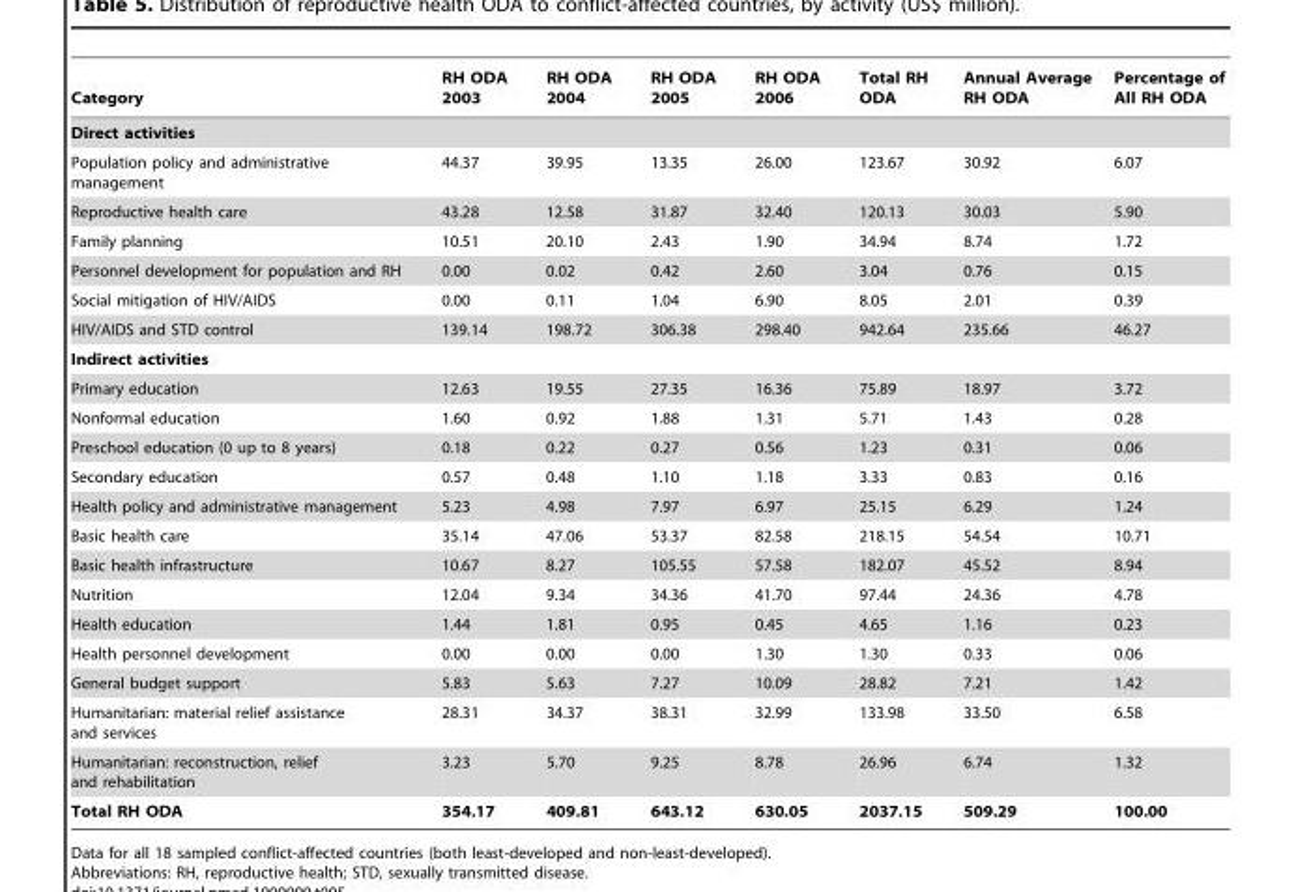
<table><thead><tr><td>Category</td><td>RH ODA 2003</td><td>RH ODA 2004</td><td>RH ODA 2005</td><td>RH ODA 2006</td><td>Total RH ODA</td><td>Annual Average RH ODA</td><td>Percentage of All RH ODA</td></tr></thead><tbody><tr><td colspan="8">Direct activities</td></tr><tr><td>Population policy and administrative management</td><td>44.37</td><td>39.95</td><td>13.35</td><td>26.00</td><td>123.67</td><td>30.92</td><td>6.07</td></tr><tr><td>Reproductive health care</td><td>43.28</td><td>12.58</td><td>31.87</td><td>32.40</td><td>120.13</td><td>30.03</td><td>5.90</td></tr><tr><td>Family planning</td><td>10.51</td><td>20.10</td><td>2.43</td><td>1.90</td><td>34.94</td><td>8.74</td><td>1.72</td></tr><tr><td>Personnel development for population and RH</td><td>0.00</td><td>0.02</td><td>0.42</td><td>2.60</td><td>3.04</td><td>0.76</td><td>0.15</td></tr><tr><td>Social mitigation of HIV/AIDS</td><td>0.00</td><td>0.11</td><td>1.04</td><td>6.90</td><td>8.05</td><td>2.01</td><td>0.39</td></tr><tr><td>HIV/AIDS and STD control</td><td>139.14</td><td>198.72</td><td>306.38</td><td>298.40</td><td>942.64</td><td>235.66</td><td>46.27</td></tr><tr><td colspan="8">Indirect activities</td></tr><tr><td>Primary education</td><td>12.63</td><td>19.55</td><td>27.35</td><td>16.36</td><td>75.89</td><td>18.97</td><td>3.72</td></tr><tr><td>Nonformal education</td><td>1.60</td><td>0.92</td><td>1.88</td><td>1.31</td><td>5.71</td><td>1.43</td><td>0.28</td></tr><tr><td>Preschool education (0 up to 8 years)</td><td>0.18</td><td>0.22</td><td>0.27</td><td>0.56</td><td>1.23</td><td>0.31</td><td>0.06</td></tr><tr><td>Secondary education</td><td>0.57</td><td>0.48</td><td>1.10</td><td>1.18</td><td>3.33</td><td>0.83</td><td>0.16</td></tr><tr><td>Health policy and administrative management</td><td>5.23</td><td>4.98</td><td>7.97</td><td>6.97</td><td>25.15</td><td>6.29</td><td>1.24</td></tr><tr><td>Basic health care</td><td>35.14</td><td>47.06</td><td>53.37</td><td>82.58</td><td>218.15</td><td>54.54</td><td>10.71</td></tr><tr><td>Basic health infrastructure</td><td>10.67</td><td>8.27</td><td>105.55</td><td>57.58</td><td>182.07</td><td>45.52</td><td>8.94</td></tr><tr><td>Nutrition</td><td>12.04</td><td>9.34</td><td>34.36</td><td>41.70</td><td>97.44</td><td>24.36</td><td>4.78</td></tr><tr><td>Health education</td><td>1.44</td><td>1.81</td><td>0.95</td><td>0.45</td><td>4.65</td><td>1.16</td><td>0.23</td></tr><tr><td>Health personnel development</td><td>0.00</td><td>0.00</td><td>0.00</td><td>1.30</td><td>1.30</td><td>0.33</td><td>0.06</td></tr><tr><td>General budget support</td><td>5.83</td><td>5.63</td><td>7.27</td><td>10.09</td><td>28.82</td><td>7.21</td><td>1.42</td></tr><tr><td>Humanitarian: material relief assistance and services</td><td>28.31</td><td>34.37</td><td>38.31</td><td>32.99</td><td>133.98</td><td>33.50</td><td>6.58</td></tr><tr><td>Humanitarian: reconstruction, relief and rehabilitation</td><td>3.23</td><td>5.70</td><td>9.25</td><td>8.78</td><td>26.96</td><td>6.74</td><td>1.32</td></tr><tr><td>Total RH ODA</td><td>354.17</td><td>409.81</td><td>643.12</td><td>630.05</td><td>2037.15</td><td>509.29</td><td>100.00</td></tr></tbody></table>